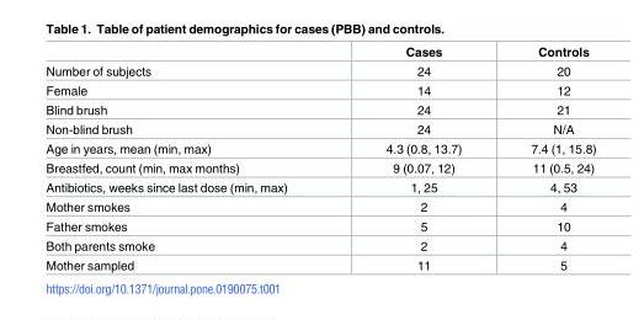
<table><thead><tr><td></td><td>Cases</td><td>Controls</td></tr></thead><tbody><tr><td>Number of subjects</td><td>24</td><td>20</td></tr><tr><td>Female</td><td>14</td><td>12</td></tr><tr><td>Blind brush</td><td>24</td><td>21</td></tr><tr><td>Non-blind brush</td><td>24</td><td>N/A</td></tr><tr><td>Age in years, mean (min, max)</td><td>4.3 (0.8, 13.7)</td><td>7.4 (1, 15.8)</td></tr><tr><td>Breastfed, count (min, max months)</td><td>9 (0.07, 12)</td><td>11 (0.5, 24)</td></tr><tr><td>Antibiotics, weeks since last dose (min, max)</td><td>1, 25</td><td>4, 53</td></tr><tr><td>Mother smokes</td><td>2</td><td>4</td></tr><tr><td>Father smokes</td><td>5</td><td>10</td></tr><tr><td>Both parents smoke</td><td>2</td><td>4</td></tr><tr><td>Mother sampled</td><td>11</td><td>5</td></tr></tbody></table>